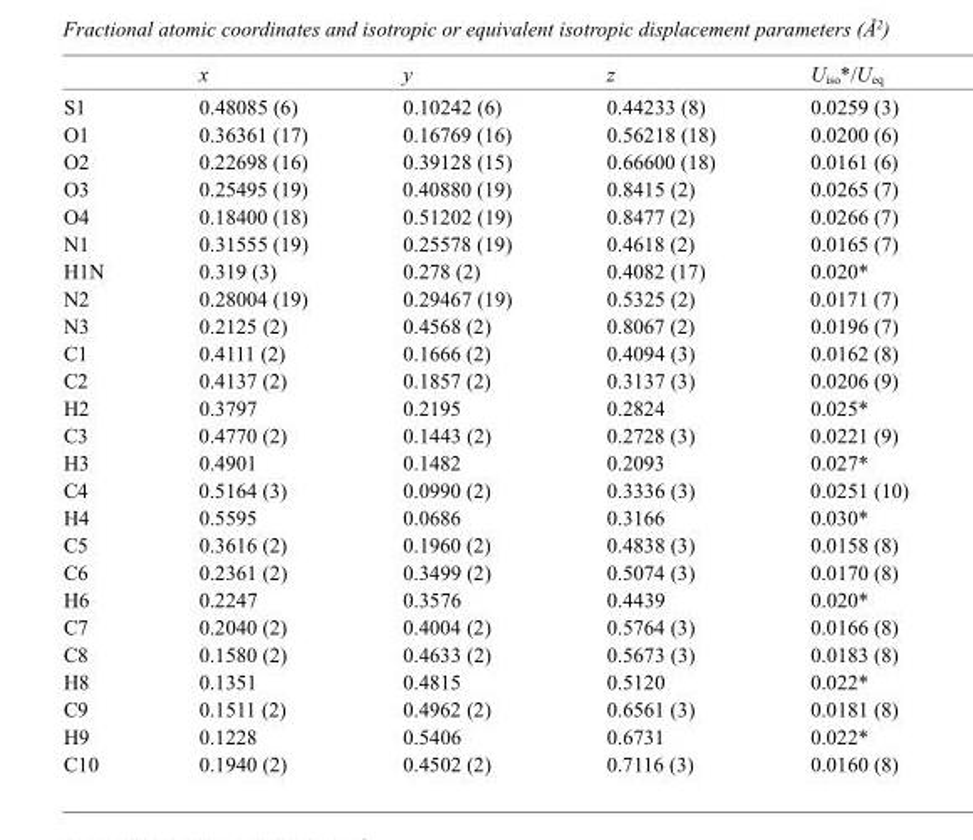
<table><thead><tr><td></td><td>x</td><td>y</td><td>z</td><td>U<sub>iso</sub>*/U<sub>eq</sub></td></tr></thead><tbody><tr><td>S1</td><td>0.48085 (6)</td><td>0.10242 (6)</td><td>0.44233 (8)</td><td>0.0259 (3)</td></tr><tr><td>O1</td><td>0.36361 (17)</td><td>0.16769 (16)</td><td>0.56218 (18)</td><td>0.0200 (6)</td></tr><tr><td>O2</td><td>0.22698 (16)</td><td>0.39128 (15)</td><td>0.66600 (18)</td><td>0.0161 (6)</td></tr><tr><td>O3</td><td>0.25495 (19)</td><td>0.40880 (19)</td><td>0.8415 (2)</td><td>0.0265 (7)</td></tr><tr><td>O4</td><td>0.18400 (18)</td><td>0.51202 (19)</td><td>0.8477 (2)</td><td>0.0266 (7)</td></tr><tr><td>N1</td><td>0.31555 (19)</td><td>0.25578 (19)</td><td>0.4618 (2)</td><td>0.0165 (7)</td></tr><tr><td>H1N</td><td>0.319 (3)</td><td>0.278 (2)</td><td>0.4082 (17)</td><td>0.020*</td></tr><tr><td>N2</td><td>0.28004 (19)</td><td>0.29467 (19)</td><td>0.5325 (2)</td><td>0.0171 (7)</td></tr><tr><td>N3</td><td>0.2125 (2)</td><td>0.4568 (2)</td><td>0.8067 (2)</td><td>0.0196 (7)</td></tr><tr><td>C1</td><td>0.4111 (2)</td><td>0.1666 (2)</td><td>0.4094 (3)</td><td>0.0162 (8)</td></tr><tr><td>C2</td><td>0.4137 (2)</td><td>0.1857 (2)</td><td>0.3137 (3)</td><td>0.0206 (9)</td></tr><tr><td>H2</td><td>0.3797</td><td>0.2195</td><td>0.2824</td><td>0.025*</td></tr><tr><td>C3</td><td>0.4770 (2)</td><td>0.1443 (2)</td><td>0.2728 (3)</td><td>0.0221 (9)</td></tr><tr><td>H3</td><td>0.4901</td><td>0.1482</td><td>0.2093</td><td>0.027*</td></tr><tr><td>C4</td><td>0.5164 (3)</td><td>0.0990 (2)</td><td>0.3336 (3)</td><td>0.0251 (10)</td></tr><tr><td>H4</td><td>0.5595</td><td>0.0686</td><td>0.3166</td><td>0.030*</td></tr><tr><td>C5</td><td>0.3616 (2)</td><td>0.1960 (2)</td><td>0.4838 (3)</td><td>0.0158 (8)</td></tr><tr><td>C6</td><td>0.2361 (2)</td><td>0.3499 (2)</td><td>0.5074 (3)</td><td>0.0170 (8)</td></tr><tr><td>H6</td><td>0.2247</td><td>0.3576</td><td>0.4439</td><td>0.020*</td></tr><tr><td>C7</td><td>0.2040 (2)</td><td>0.4004 (2)</td><td>0.5764 (3)</td><td>0.0166 (8)</td></tr><tr><td>C8</td><td>0.1580 (2)</td><td>0.4633 (2)</td><td>0.5673 (3)</td><td>0.0183 (8)</td></tr><tr><td>H8</td><td>0.1351</td><td>0.4815</td><td>0.5120</td><td>0.022*</td></tr><tr><td>C9</td><td>0.1511 (2)</td><td>0.4962 (2)</td><td>0.6561 (3)</td><td>0.0181 (8)</td></tr><tr><td>H9</td><td>0.1228</td><td>0.5406</td><td>0.6731</td><td>0.022*</td></tr><tr><td>C10</td><td>0.1940 (2)</td><td>0.4502 (2)</td><td>0.7116 (3)</td><td>0.0160 (8)</td></tr></tbody></table>